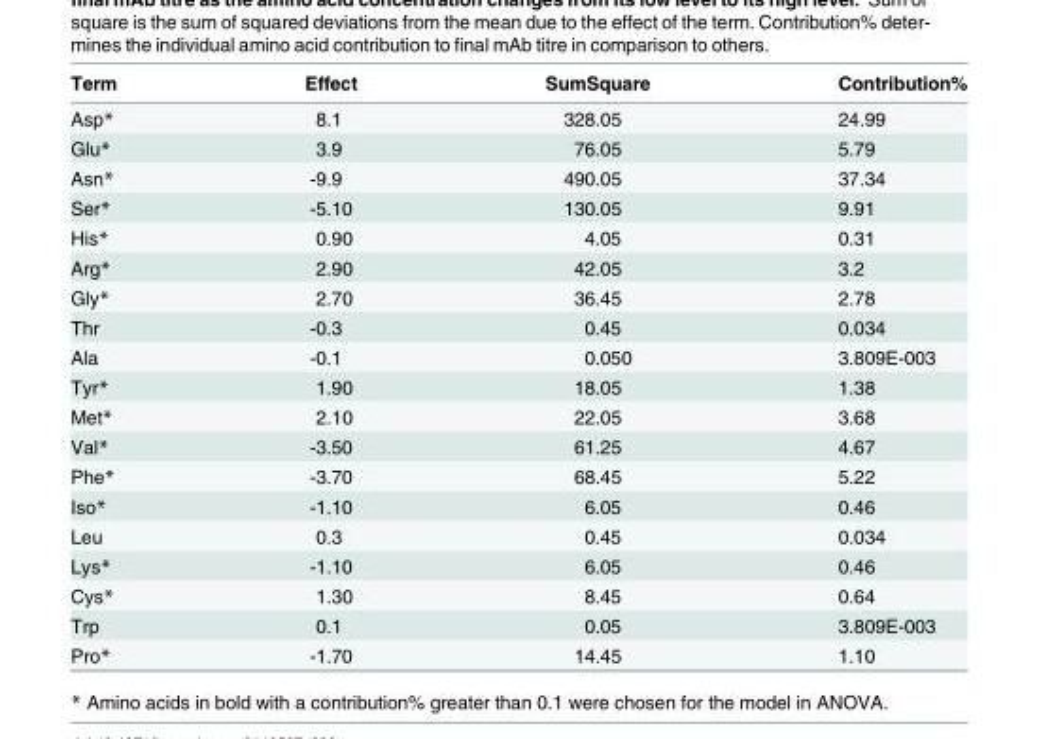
<table><thead><tr><td>Term</td><td>Effect</td><td>SumSquare</td><td>Contribution%</td></tr></thead><tbody><tr><td>Asp*</td><td>8.1</td><td>328.05</td><td>24.99</td></tr><tr><td>Glu*</td><td>3.9</td><td>76.05</td><td>5.79</td></tr><tr><td>Asn*</td><td>-9.9</td><td>490.05</td><td>37.34</td></tr><tr><td>Ser*</td><td>-5.10</td><td>130.05</td><td>9.91</td></tr><tr><td>His*</td><td>0.90</td><td>4.05</td><td>0.31</td></tr><tr><td>Arg*</td><td>2.90</td><td>42.05</td><td>3.2</td></tr><tr><td>Gly*</td><td>2.70</td><td>36.45</td><td>2.78</td></tr><tr><td>Thr</td><td>-0.3</td><td>0.45</td><td>0.034</td></tr><tr><td>Ala</td><td>-0.1</td><td>0.050</td><td>3.809E-003</td></tr><tr><td>Tyr*</td><td>1.90</td><td>18.05</td><td>1.38</td></tr><tr><td>Met*</td><td>2.10</td><td>22.05</td><td>3.68</td></tr><tr><td>Val*</td><td>-3.50</td><td>61.25</td><td>4.67</td></tr><tr><td>Phe*</td><td>-3.70</td><td>68.45</td><td>5.22</td></tr><tr><td>Iso*</td><td>-1.10</td><td>6.05</td><td>0.46</td></tr><tr><td>Leu</td><td>0.3</td><td>0.45</td><td>0.034</td></tr><tr><td>Lys*</td><td>-1.10</td><td>6.05</td><td>0.46</td></tr><tr><td>Cys*</td><td>1.30</td><td>8.45</td><td>0.64</td></tr><tr><td>Trp</td><td>0.1</td><td>0.05</td><td>3.809E-003</td></tr><tr><td>Pro*</td><td>-1.70</td><td>14.45</td><td>1.10</td></tr></tbody></table>